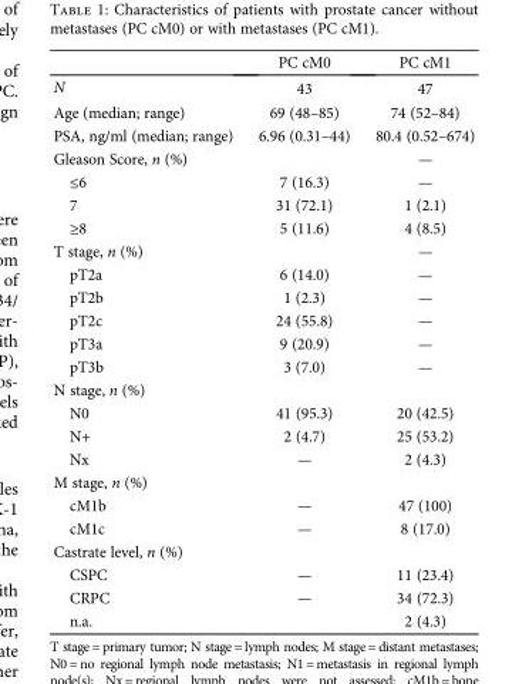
<table><thead><tr><td></td><td>PC cM0</td><td>PC cM1</td></tr></thead><tbody><tr><td>N</td><td>43</td><td>47</td></tr><tr><td>Age (median; range)</td><td>69 (48–85)</td><td>74 (52–84)</td></tr><tr><td>PSA, ng/ml (median; range)</td><td>6.96 (0.31–44)</td><td>80.4 (0.52–674)</td></tr><tr><td>Gleason Score, n (%)</td><td></td><td>—</td></tr><tr><td>≤6</td><td>7 (16.3)</td><td>—</td></tr><tr><td>7</td><td>31 (72.1)</td><td>1 (2.1)</td></tr><tr><td>≥8</td><td>5 (11.6)</td><td>4 (8.5)</td></tr><tr><td>T stage, n (%)</td><td></td><td>—</td></tr><tr><td>pT2a</td><td>6 (14.0)</td><td>—</td></tr><tr><td>pT2b</td><td>1 (2.3)</td><td>—</td></tr><tr><td>pT2c</td><td>24 (55.8)</td><td>—</td></tr><tr><td>pT3a</td><td>9 (20.9)</td><td>—</td></tr><tr><td>pT3b</td><td>3 (7.0)</td><td>—</td></tr><tr><td colspan="3">N stage, n (%)</td></tr><tr><td>N0</td><td>41 (95.3)</td><td>20 (42.5)</td></tr><tr><td>N+</td><td>2 (4.7)</td><td>25 (53.2)</td></tr><tr><td>Nx</td><td>—</td><td>2 (4.3)</td></tr><tr><td colspan="3">M stage, n (%)</td></tr><tr><td>cM1b</td><td>—</td><td>47 (100)</td></tr><tr><td>cM1c</td><td>—</td><td>8 (17.0)</td></tr><tr><td colspan="3">Castrate level, n (%)</td></tr><tr><td>CSPC</td><td>—</td><td>11 (23.4)</td></tr><tr><td>CRPC</td><td>—</td><td>34 (72.3)</td></tr><tr><td>n.a.</td><td></td><td>2 (4.3)</td></tr></tbody></table>